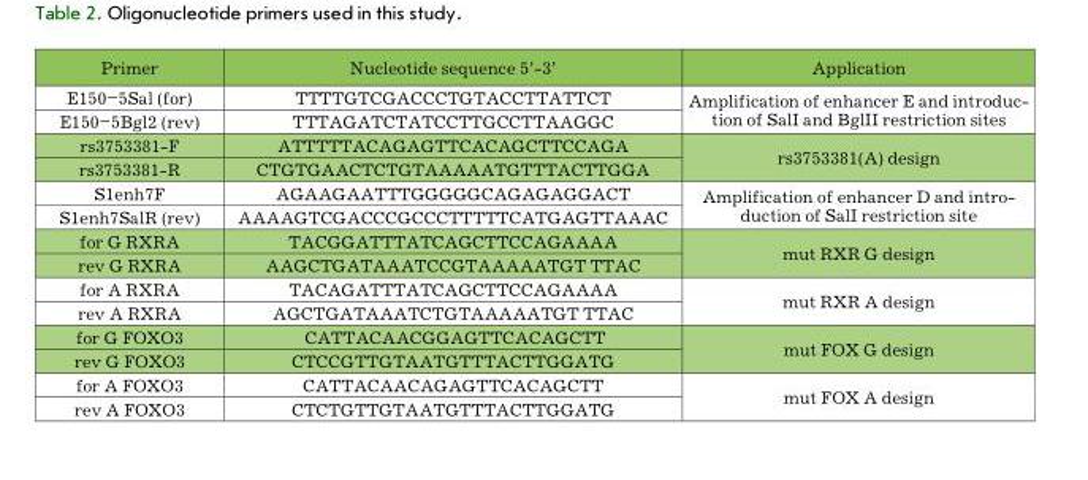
<table><thead><tr><td>Primer</td><td>Nucleotide sequence 5’-3’</td><td>Application</td></tr></thead><tbody><tr><td>E150–5Sal (for)</td><td>TTTTGTCGACCCTGTACCTTATTCT</td><td rowspan="2">Amplification of enhancer E and introduc- tion of SalI and BglII restriction sites</td></tr><tr><td>E150–5Bgl2 (rev)</td><td>TTTAGATCTATCCTTGCCTTAAGGC</td></tr><tr><td>rs3753381-F</td><td>ATTTTTACAGAGTTCACAGCTTCCAGA</td><td rowspan="2">rs3753381(A) design</td></tr><tr><td>rs3753381-R</td><td>CTGTGAACTCTGTAAAAATGTTTACTTGGA</td></tr><tr><td>S1enh7F</td><td>AGAAGAATTTGGGGGCAGAGAGGACT</td><td rowspan="2">Amplification of enhancer D and intro- duction of SalI restriction site</td></tr><tr><td>S1enh7SalR (rev)</td><td>AAAAGTCGACCCGCCCTTTTTCATGAGTTAAAC</td></tr><tr><td>for G RXRA</td><td>TACGGATTTATCAGCTTCCAGAAAA</td><td rowspan="2">mut RXR G design</td></tr><tr><td>rev G RXRA</td><td>AAGCTGATAAATCCGTAAAAATGT TTAC</td></tr><tr><td>for A RXRA</td><td>TACAGATTTATCAGCTTCCAGAAAA</td><td rowspan="2">mut RXR A design</td></tr><tr><td>rev A RXRA</td><td>AGCTGATAAATCTGTAAAAATGT TTAC</td></tr><tr><td>for G FOXO3</td><td>CATTACAACGGAGTTCACAGCTT</td><td rowspan="2">mut FOX G design</td></tr><tr><td>rev G FOXO3</td><td>CTCCGTTGTAATGTTTACTTGGATG</td></tr><tr><td>for A FOXO3</td><td>CATTACAACAGAGTTCACAGCTT</td><td rowspan="2">mut FOX A design</td></tr><tr><td>rev A FOXO3</td><td>CTCTGTTGTAATGTTTACTTGGATG</td></tr></tbody></table>